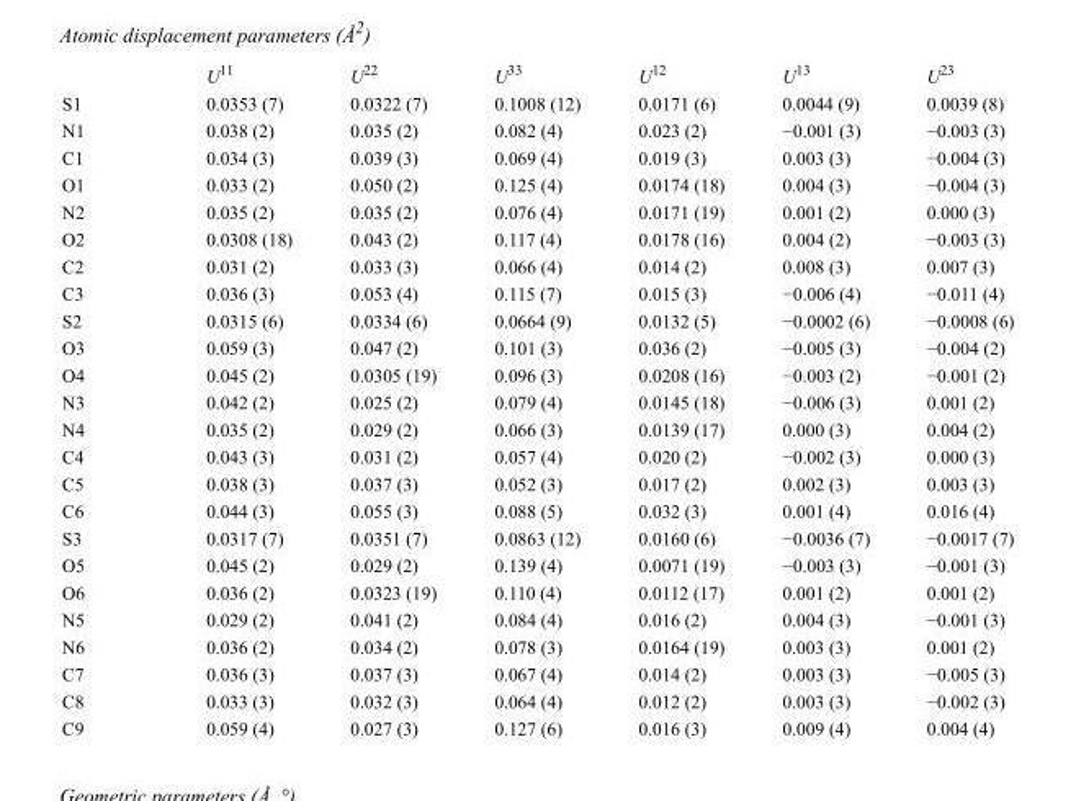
<table><thead><tr><td></td><td>U<sup>11</sup></td><td>U<sup>22</sup></td><td>U<sup>33</sup></td><td>U<sup>12</sup></td><td>U<sup>13</sup></td><td>U<sup>23</sup></td></tr></thead><tbody><tr><td>S1</td><td>0.0353 (7)</td><td>0.0322 (7)</td><td>0.1008 (12)</td><td>0.0171 (6)</td><td>0.0044 (9)</td><td>0.0039 (8)</td></tr><tr><td>N1</td><td>0.038 (2)</td><td>0.035 (2)</td><td>0.082 (4)</td><td>0.023 (2)</td><td>−0.001 (3)</td><td>−0.003 (3)</td></tr><tr><td>C1</td><td>0.034 (3)</td><td>0.039 (3)</td><td>0.069 (4)</td><td>0.019 (3)</td><td>0.003 (3)</td><td>−0.004 (3)</td></tr><tr><td>O1</td><td>0.033 (2)</td><td>0.050 (2)</td><td>0.125 (4)</td><td>0.0174 (18)</td><td>0.004 (3)</td><td>−0.004 (3)</td></tr><tr><td>N2</td><td>0.035 (2)</td><td>0.035 (2)</td><td>0.076 (4)</td><td>0.0171 (19)</td><td>0.001 (2)</td><td>0.000 (3)</td></tr><tr><td>O2</td><td>0.0308 (18)</td><td>0.043 (2)</td><td>0.117 (4)</td><td>0.0178 (16)</td><td>0.004 (2)</td><td>−0.003 (3)</td></tr><tr><td>C2</td><td>0.031 (2)</td><td>0.033 (3)</td><td>0.066 (4)</td><td>0.014 (2)</td><td>0.008 (3)</td><td>0.007 (3)</td></tr><tr><td>C3</td><td>0.036 (3)</td><td>0.053 (4)</td><td>0.115 (7)</td><td>0.015 (3)</td><td>−0.006 (4)</td><td>−0.011 (4)</td></tr><tr><td>S2</td><td>0.0315 (6)</td><td>0.0334 (6)</td><td>0.0664 (9)</td><td>0.0132 (5)</td><td>−0.0002 (6)</td><td>−0.0008 (6)</td></tr><tr><td>O3</td><td>0.059 (3)</td><td>0.047 (2)</td><td>0.101 (3)</td><td>0.036 (2)</td><td>−0.005 (3)</td><td>−0.004 (2)</td></tr><tr><td>O4</td><td>0.045 (2)</td><td>0.0305 (19)</td><td>0.096 (3)</td><td>0.0208 (16)</td><td>−0.003 (2)</td><td>−0.001 (2)</td></tr><tr><td>N3</td><td>0.042 (2)</td><td>0.025 (2)</td><td>0.079 (4)</td><td>0.0145 (18)</td><td>−0.006 (3)</td><td>0.001 (2)</td></tr><tr><td>N4</td><td>0.035 (2)</td><td>0.029 (2)</td><td>0.066 (3)</td><td>0.0139 (17)</td><td>0.000 (3)</td><td>0.004 (2)</td></tr><tr><td>C4</td><td>0.043 (3)</td><td>0.031 (2)</td><td>0.057 (4)</td><td>0.020 (2)</td><td>−0.002 (3)</td><td>0.000 (3)</td></tr><tr><td>C5</td><td>0.038 (3)</td><td>0.037 (3)</td><td>0.052 (3)</td><td>0.017 (2)</td><td>0.002 (3)</td><td>0.003 (3)</td></tr><tr><td>C6</td><td>0.044 (3)</td><td>0.055 (3)</td><td>0.088 (5)</td><td>0.032 (3)</td><td>0.001 (4)</td><td>0.016 (4)</td></tr><tr><td>S3</td><td>0.0317 (7)</td><td>0.0351 (7)</td><td>0.0863 (12)</td><td>0.0160 (6)</td><td>−0.0036 (7)</td><td>−0.0017 (7)</td></tr><tr><td>O5</td><td>0.045 (2)</td><td>0.029 (2)</td><td>0.139 (4)</td><td>0.0071 (19)</td><td>−0.003 (3)</td><td>−0.001 (3)</td></tr><tr><td>O6</td><td>0.036 (2)</td><td>0.0323 (19)</td><td>0.110 (4)</td><td>0.0112 (17)</td><td>0.001 (2)</td><td>0.001 (2)</td></tr><tr><td>N5</td><td>0.029 (2)</td><td>0.041 (2)</td><td>0.084 (4)</td><td>0.016 (2)</td><td>0.004 (3)</td><td>−0.001 (3)</td></tr><tr><td>N6</td><td>0.036 (2)</td><td>0.034 (2)</td><td>0.078 (3)</td><td>0.0164 (19)</td><td>0.003 (3)</td><td>0.001 (2)</td></tr><tr><td>C7</td><td>0.036 (3)</td><td>0.037 (3)</td><td>0.067 (4)</td><td>0.014 (2)</td><td>0.003 (3)</td><td>−0.005 (3)</td></tr><tr><td>C8</td><td>0.033 (3)</td><td>0.032 (3)</td><td>0.064 (4)</td><td>0.012 (2)</td><td>0.003 (3)</td><td>−0.002 (3)</td></tr><tr><td>C9</td><td>0.059 (4)</td><td>0.027 (3)</td><td>0.127 (6)</td><td>0.016 (3)</td><td>0.009 (4)</td><td>0.004 (4)</td></tr></tbody></table>